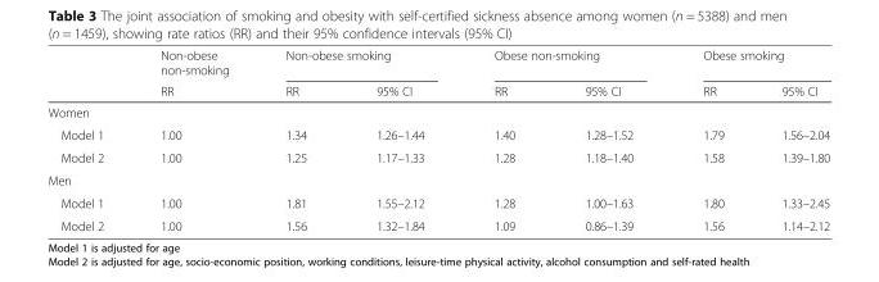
<table><thead><tr><td rowspan="2"></td><td rowspan="2">Non-obese non-smoking RR</td><td colspan="2">Non-obese smoking</td><td colspan="2">Obese non-smoking</td><td colspan="2">Obese smoking</td></tr><tr><td>RR</td><td>95% CI</td><td>RR</td><td>95% CI</td><td>RR</td><td>95% CI</td></tr></thead><tbody><tr><td colspan="8">Women</td></tr><tr><td>Model 1</td><td>1.00</td><td>1.34</td><td>1.26–1.44</td><td>1.40</td><td>1.28–1.52</td><td>1.79</td><td>1.56–2.04</td></tr><tr><td>Model 2</td><td>1.00</td><td>1.25</td><td>1.17–1.33</td><td>1.28</td><td>1.18–1.40</td><td>1.58</td><td>1.39–1.80</td></tr><tr><td colspan="8">Men</td></tr><tr><td>Model 1</td><td>1.00</td><td>1.81</td><td>1.55–2.12</td><td>1.28</td><td>1.00–1.63</td><td>1.80</td><td>1.33–2.45</td></tr><tr><td>Model 2</td><td>1.00</td><td>1.56</td><td>1.32–1.84</td><td>1.09</td><td>0.86–1.39</td><td>1.56</td><td>1.14–2.12</td></tr></tbody></table>